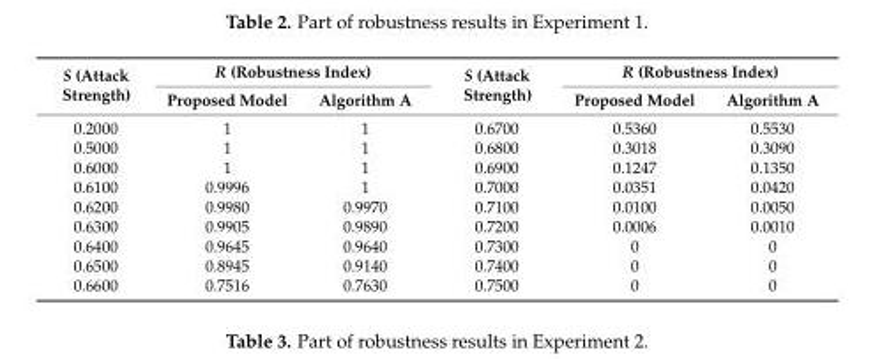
<table><thead><tr><td rowspan="2">S (Attack Strength)</td><td colspan="2">R (Robustness Index)</td><td rowspan="2">S (Attack Strength)</td><td colspan="2">R (Robustness Index)</td></tr><tr><td>Proposed Model</td><td>Algorithm A</td><td>Proposed Model</td><td>Algorithm A</td></tr></thead><tbody><tr><td>0.2000</td><td>1</td><td>1</td><td>0.6700</td><td>0.5360</td><td>0.5530</td></tr><tr><td>0.5000</td><td>1</td><td>1</td><td>0.6800</td><td>0.3018</td><td>0.3090</td></tr><tr><td>0.6000</td><td>1</td><td>1</td><td>0.6900</td><td>0.1247</td><td>0.1350</td></tr><tr><td>0.6100</td><td>0.9996</td><td>1</td><td>0.7000</td><td>0.0351</td><td>0.0420</td></tr><tr><td>0.6200</td><td>0.9980</td><td>0.9970</td><td>0.7100</td><td>0.0100</td><td>0.0050</td></tr><tr><td>0.6300</td><td>0.9905</td><td>0.9890</td><td>0.7200</td><td>0.0006</td><td>0.0010</td></tr><tr><td>0.6400</td><td>0.9645</td><td>0.9640</td><td>0.7300</td><td>0</td><td>0</td></tr><tr><td>0.6500</td><td>0.8945</td><td>0.9140</td><td>0.7400</td><td>0</td><td>0</td></tr><tr><td>0.6600</td><td>0.7516</td><td>0.7630</td><td>0.7500</td><td>0</td><td>0</td></tr></tbody></table>